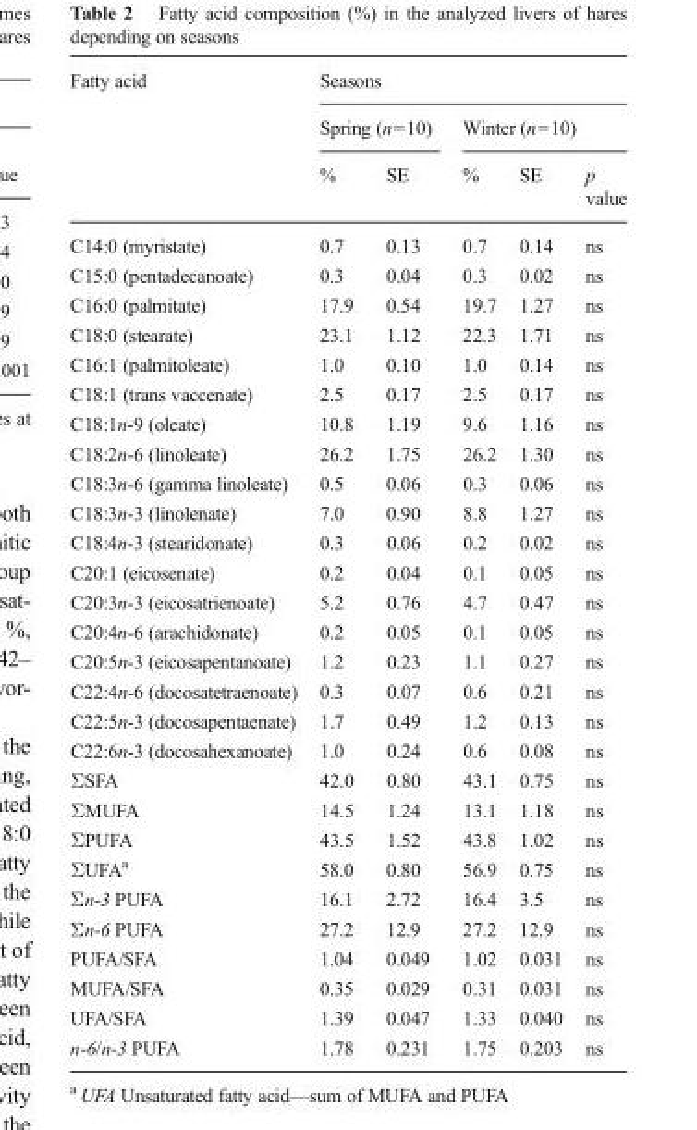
<table><thead><tr><td rowspan="3">Fatty acid</td><td colspan="5">Seasons</td></tr><tr><td colspan="2">Spring (n=10)</td><td colspan="3">Winter (n=10)</td></tr><tr><td>%</td><td>SE</td><td>%</td><td>SE</td><td>p value</td></tr></thead><tbody><tr><td>C14:0 (myristate)</td><td>0.7</td><td>0.13</td><td>0.7</td><td>0.14</td><td>ns</td></tr><tr><td>C15:0 (pentadecanoate)</td><td>0.3</td><td>0.04</td><td>0.3</td><td>0.02</td><td>ns</td></tr><tr><td>C16:0 (palmitate)</td><td>17.9</td><td>0.54</td><td>19.7</td><td>1.27</td><td>ns</td></tr><tr><td>C18:0 (stearate)</td><td>23.1</td><td>1.12</td><td>22.3</td><td>1.71</td><td>ns</td></tr><tr><td>C16:1 (palmitoleate)</td><td>1.0</td><td>0.10</td><td>1.0</td><td>0.14</td><td>ns</td></tr><tr><td>C18:1 (trans vaccenate)</td><td>2.5</td><td>0.17</td><td>2.5</td><td>0.17</td><td>ns</td></tr><tr><td>C18:1n-9 (oleate)</td><td>10.8</td><td>1.19</td><td>9.6</td><td>1.16</td><td>ns</td></tr><tr><td>C18:2n-6 (linoleate)</td><td>26.2</td><td>1.75</td><td>26.2</td><td>1.30</td><td>ns</td></tr><tr><td>C18:3n-6 (gamma linoleate)</td><td>0.5</td><td>0.06</td><td>0.3</td><td>0.06</td><td>ns</td></tr><tr><td>C18:3n-3 (linolenate)</td><td>7.0</td><td>0.90</td><td>8.8</td><td>1.27</td><td>ns</td></tr><tr><td>C18:4n-3 (stearidonate)</td><td>0.3</td><td>0.06</td><td>0.2</td><td>0.02</td><td>ns</td></tr><tr><td>C20:1 (eicosenate)</td><td>0.2</td><td>0.04</td><td>0.1</td><td>0.05</td><td>ns</td></tr><tr><td>C20:3n-3 (eicosatrienoate)</td><td>5.2</td><td>0.76</td><td>4.7</td><td>0.47</td><td>ns</td></tr><tr><td>C20:4n-6 (arachidonate)</td><td>0.2</td><td>0.05</td><td>0.1</td><td>0.05</td><td>ns</td></tr><tr><td>C20:5n-3 (eicosapentanoate)</td><td>1.2</td><td>0.23</td><td>1.1</td><td>0.27</td><td>ns</td></tr><tr><td>C22:4n-6 (docosatetraenoate)</td><td>0.3</td><td>0.07</td><td>0.6</td><td>0.21</td><td>ns</td></tr><tr><td>C22:5n-3 (docosapentaenate)</td><td>1.7</td><td>0.49</td><td>1.2</td><td>0.13</td><td>ns</td></tr><tr><td>C22:6n-3 (docosahexanoate)</td><td>1.0</td><td>0.24</td><td>0.6</td><td>0.08</td><td>ns</td></tr><tr><td>ΣSFA</td><td>42.0</td><td>0.80</td><td>43.1</td><td>0.75</td><td>ns</td></tr><tr><td>ΣMUFA</td><td>14.5</td><td>1.24</td><td>13.1</td><td>1.18</td><td>ns</td></tr><tr><td>ΣPUFA</td><td>43.5</td><td>1.52</td><td>43.8</td><td>1.02</td><td>ns</td></tr><tr><td>ΣUFA<sup>a</sup></td><td>58.0</td><td>0.80</td><td>56.9</td><td>0.75</td><td>ns</td></tr><tr><td>Σn-3 PUFA</td><td>16.1</td><td>2.72</td><td>16.4</td><td>3.5</td><td>ns</td></tr><tr><td>Σn-6 PUFA</td><td>27.2</td><td>12.9</td><td>27.2</td><td>12.9</td><td>ns</td></tr><tr><td>PUFA/SFA</td><td>1.04</td><td>0.049</td><td>1.02</td><td>0.031</td><td>ns</td></tr><tr><td>MUFA/SFA</td><td>0.35</td><td>0.029</td><td>0.31</td><td>0.031</td><td>ns</td></tr><tr><td>UFA/SFA</td><td>1.39</td><td>0.047</td><td>1.33</td><td>0.040</td><td>ns</td></tr><tr><td>n-6/n-3 PUFA</td><td>1.78</td><td>0.231</td><td>1.75</td><td>0.203</td><td>ns</td></tr></tbody></table>